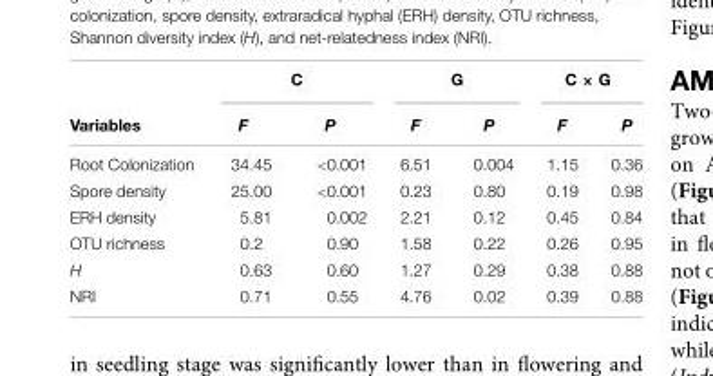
<table><thead><tr><td rowspan="2">Variables</td><td colspan="2">C</td><td colspan="2">G</td><td colspan="2">C × G</td></tr><tr><td>F</td><td>P</td><td>F</td><td>P</td><td>F</td><td>P</td></tr></thead><tbody><tr><td>Root Colonization</td><td>34.45</td><td>&lt;0.001</td><td>6.51</td><td>0.004</td><td>1.15</td><td>0.36</td></tr><tr><td>Spore density</td><td>25.00</td><td>&lt;0.001</td><td>0.23</td><td>0.80</td><td>0.19</td><td>0.98</td></tr><tr><td>ERH density</td><td>5.81</td><td>0.002</td><td>2.21</td><td>0.12</td><td>0.45</td><td>0.84</td></tr><tr><td>OTU richness</td><td>0.2</td><td>0.90</td><td>1.58</td><td>0.22</td><td>0.26</td><td>0.95</td></tr><tr><td>H</td><td>0.63</td><td>0.60</td><td>1.27</td><td>0.29</td><td>0.38</td><td>0.88</td></tr><tr><td>NRI</td><td>0.71</td><td>0.55</td><td>4.76</td><td>0.02</td><td>0.39</td><td>0.88</td></tr></tbody></table>